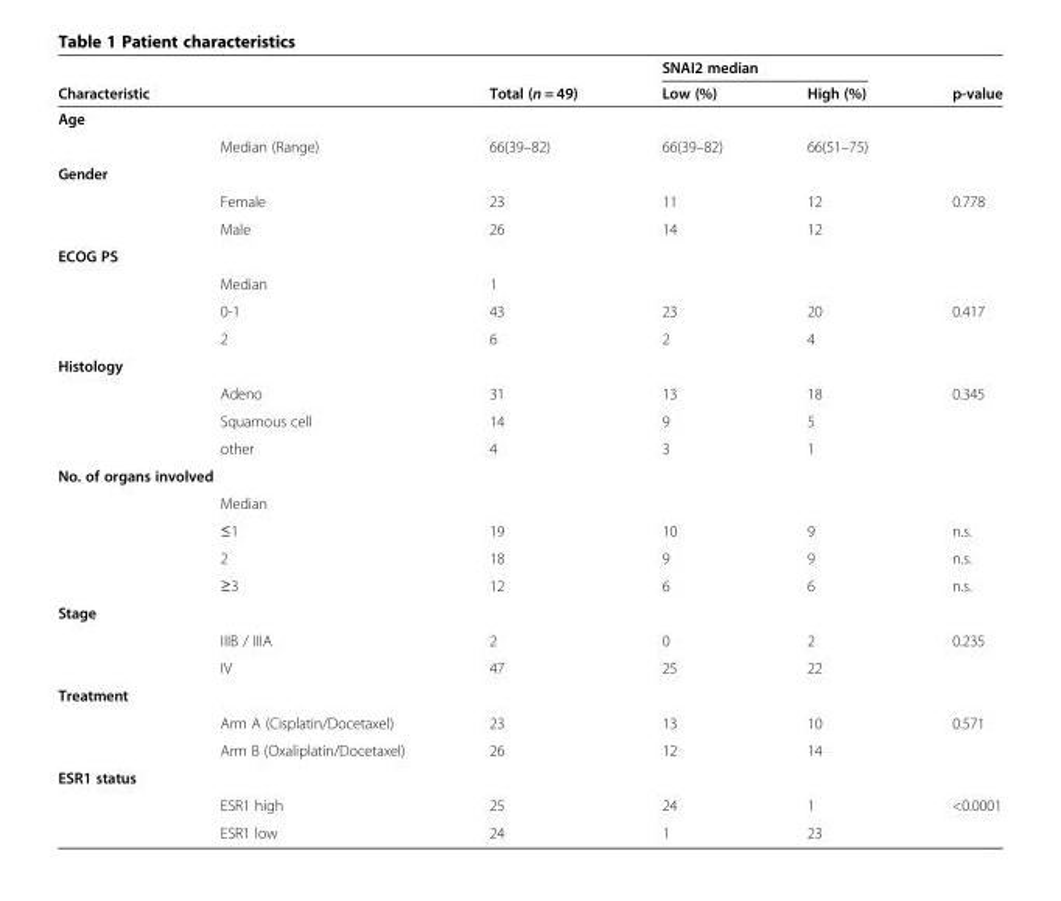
<table><thead><tr><td></td><td></td><td rowspan="2">Total (n = 49)</td><td colspan="2">SNAI2 median</td><td rowspan="2">p-value</td></tr><tr><td colspan="2">Characteristic</td><td>Low (%)</td><td>High (%)</td></tr></thead><tbody><tr><td colspan="6">Age</td></tr><tr><td></td><td>Median (Range)</td><td>66(39–82)</td><td>66(39–82)</td><td>66(51–75)</td><td></td></tr><tr><td colspan="6">Gender</td></tr><tr><td></td><td>Female</td><td>23</td><td>11</td><td>12</td><td>0.778</td></tr><tr><td></td><td>Male</td><td>26</td><td>14</td><td>12</td><td></td></tr><tr><td colspan="6">ECOG PS</td></tr><tr><td></td><td>Median</td><td>1</td><td></td><td></td><td></td></tr><tr><td></td><td>0-1</td><td>43</td><td>23</td><td>20</td><td>0.417</td></tr><tr><td></td><td>2</td><td>6</td><td>2</td><td>4</td><td></td></tr><tr><td colspan="6">Histology</td></tr><tr><td></td><td>Adeno</td><td>31</td><td>13</td><td>18</td><td>0.345</td></tr><tr><td></td><td>Squamous cell</td><td>14</td><td>9</td><td>5</td><td></td></tr><tr><td></td><td>other</td><td>4</td><td>3</td><td>1</td><td></td></tr><tr><td colspan="6">No. of organs involved</td></tr><tr><td></td><td>Median</td><td></td><td></td><td></td><td></td></tr><tr><td></td><td>≤1</td><td>19</td><td>10</td><td>9</td><td>n.s.</td></tr><tr><td></td><td>2</td><td>18</td><td>9</td><td>9</td><td>n.s.</td></tr><tr><td></td><td>≥3</td><td>12</td><td>6</td><td>6</td><td>n.s.</td></tr><tr><td colspan="6">Stage</td></tr><tr><td></td><td>IIIB / IIIA</td><td>2</td><td>0</td><td>2</td><td>0.235</td></tr><tr><td></td><td>IV</td><td>47</td><td>25</td><td>22</td><td></td></tr><tr><td colspan="6">Treatment</td></tr><tr><td></td><td>Arm A (Cisplatin/Docetaxel)</td><td>23</td><td>13</td><td>10</td><td>0.571</td></tr><tr><td></td><td>Arm B (Oxaliplatin/Docetaxel)</td><td>26</td><td>12</td><td>14</td><td></td></tr><tr><td colspan="6">ESR1 status</td></tr><tr><td></td><td>ESR1 high</td><td>25</td><td>24</td><td>1</td><td>&lt;0.0001</td></tr><tr><td></td><td>ESR1 low</td><td>24</td><td>1</td><td>23</td><td></td></tr></tbody></table>